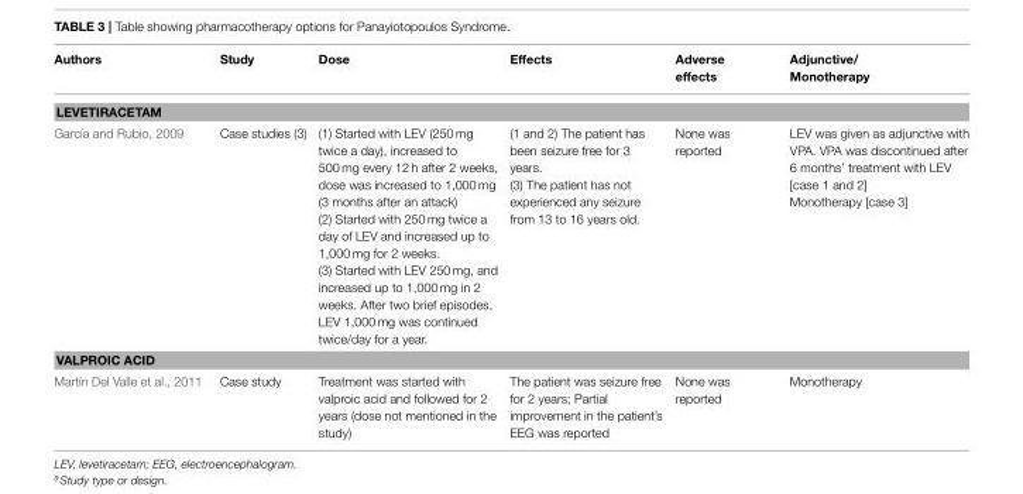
<table><thead><tr><td>Authors</td><td>Study</td><td>Dose</td><td>Effects</td><td>Adverse effects</td><td>Adjunctive/ Monotherapy</td></tr></thead><tbody><tr><td colspan="6">LEVETIRACETAM</td></tr><tr><td>García and Rubio, 2009</td><td>Case studies (3)</td><td>(1) Started with LEV (250 mg twice a day), increased to 500 mg every 12 h after 2 weeks, dose was increased to 1,000 mg (3 months after an attack) (2) Started with 250 mg twice a day of LEV and increased up to 1,000 mg for 2 weeks. (3) Started with LEV 250 mg, and increased up to 1,000 mg in 2 weeks. After two brief episodes, LEV 1,000 mg was continued twice/day for a year.</td><td>(1 and 2) The patient has been seizure free for 3 years. (3) The patient has not experienced any seizure from 13 to 16 years old.</td><td>None was reported</td><td>LEV was given as adjunctive with VPA. VPA was discontinued after 6 months’ treatment with LEV [case 1 and 2] Monotherapy [case 3]</td></tr><tr><td colspan="6">VALPROIC ACID</td></tr><tr><td>Martín Del Valle et al., 2011</td><td>Case study</td><td>Treatment was started with valproic acid and followed for 2 years (dose not mentioned in the study)</td><td>The patient was seizure free for 2 years; Partial improvement in the patient’s EEG was reported</td><td>None was reported</td><td>Monotherapy</td></tr></tbody></table>